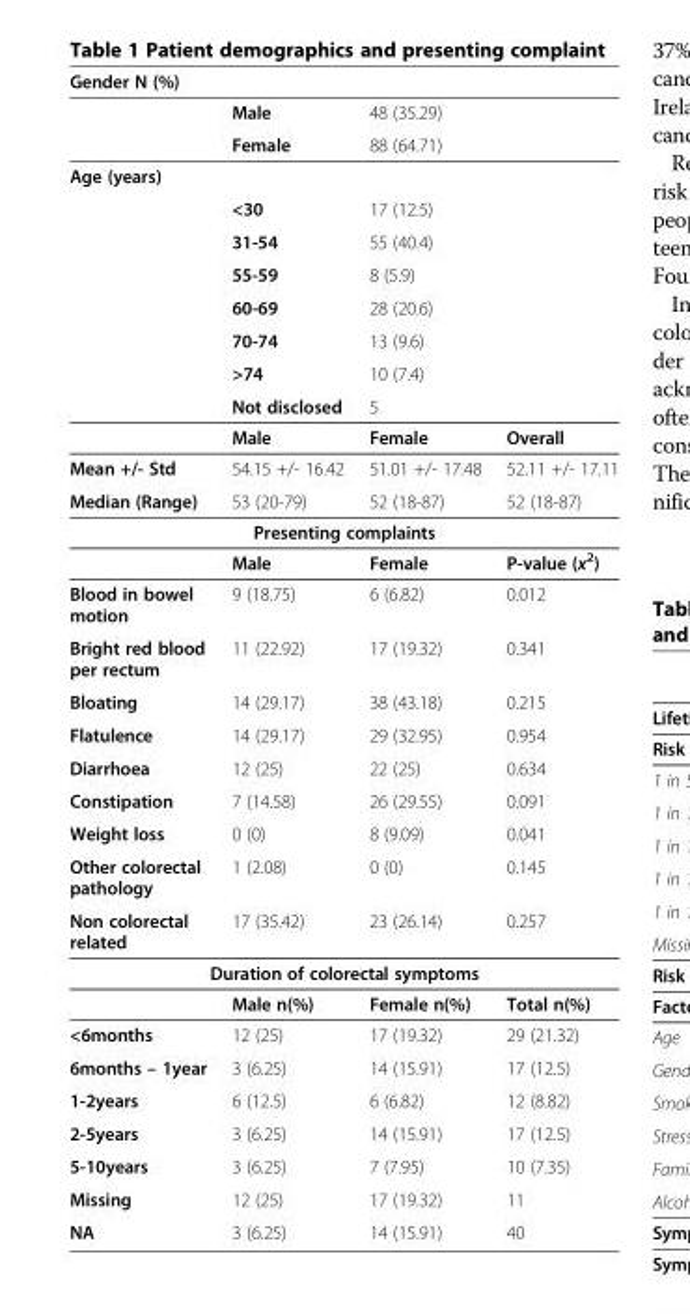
<table><thead><tr><td colspan="4">Gender N (%)</td></tr><tr><td></td><td>Male</td><td>48 (35.29)</td><td></td></tr></thead><tbody><tr><td></td><td>Female</td><td>88 (64.71)</td><td></td></tr><tr><td colspan="4">Age (years)</td></tr><tr><td></td><td>&lt;30</td><td>17 (12.5)</td><td></td></tr><tr><td></td><td>31-54</td><td>55 (40.4)</td><td></td></tr><tr><td></td><td>55-59</td><td>8 (5.9)</td><td></td></tr><tr><td></td><td>60-69</td><td>28 (20.6)</td><td></td></tr><tr><td></td><td>70-74</td><td>13 (9.6)</td><td></td></tr><tr><td></td><td>&gt;74</td><td>10 (7.4)</td><td></td></tr><tr><td></td><td>Not disclosed</td><td>5</td><td></td></tr><tr><td></td><td>Male</td><td>Female</td><td>Overall</td></tr><tr><td>Mean +/- Std</td><td>54.15 +/- 16.42</td><td>51.01 +/- 17.48</td><td>52.11 +/- 17.11</td></tr><tr><td>Median (Range)</td><td>53 (20-79)</td><td>52 (18-87)</td><td>52 (18-87)</td></tr><tr><td colspan="4">Presenting complaints</td></tr><tr><td></td><td>Male</td><td>Female</td><td>P-value (x<sup>2</sup>)</td></tr><tr><td>Blood in bowel motion</td><td>9 (18.75)</td><td>6 (6.82)</td><td>0.012</td></tr><tr><td>Bright red blood per rectum</td><td>11 (22.92)</td><td>17 (19.32)</td><td>0.341</td></tr><tr><td>Bloating</td><td>14 (29.17)</td><td>38 (43.18)</td><td>0.215</td></tr><tr><td>Flatulence</td><td>14 (29.17)</td><td>29 (32.95)</td><td>0.954</td></tr><tr><td>Diarrhoea</td><td>12 (25)</td><td>22 (25)</td><td>0.634</td></tr><tr><td>Constipation</td><td>7 (14.58)</td><td>26 (29.55)</td><td>0.091</td></tr><tr><td>Weight loss</td><td>0 (0)</td><td>8 (9.09)</td><td>0.041</td></tr><tr><td>Other colorectal pathology</td><td>1 (2.08)</td><td>0 (0)</td><td>0.145</td></tr><tr><td>Non colorectal related</td><td>17 (35.42)</td><td>23 (26.14)</td><td>0.257</td></tr><tr><td colspan="4">Duration of colorectal symptoms</td></tr><tr><td></td><td>Male n(%)</td><td>Female n(%)</td><td>Total n(%)</td></tr><tr><td>&lt;6months</td><td>12 (25)</td><td>17 (19.32)</td><td>29 (21.32)</td></tr><tr><td>6months – 1year</td><td>3 (6.25)</td><td>14 (15.91)</td><td>17 (12.5)</td></tr><tr><td>1-2years</td><td>6 (12.5)</td><td>6 (6.82)</td><td>12 (8.82)</td></tr><tr><td>2-5years</td><td>3 (6.25)</td><td>14 (15.91)</td><td>17 (12.5)</td></tr><tr><td>5-10years</td><td>3 (6.25)</td><td>7 (7.95)</td><td>10 (7.35)</td></tr><tr><td>Missing</td><td>12 (25)</td><td>17 (19.32)</td><td>11</td></tr><tr><td>NA</td><td>3 (6.25)</td><td>14 (15.91)</td><td>40</td></tr></tbody></table>